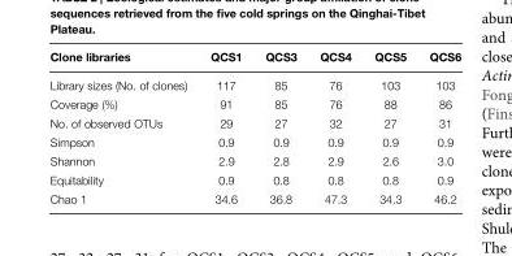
<table><thead><tr><td>Clone libraries</td><td>QCS1</td><td>QCS3</td><td>QCS4</td><td>QCS5</td><td>QCS6</td></tr></thead><tbody><tr><td>Library sizes (No. of clones)</td><td>117</td><td>85</td><td>76</td><td>103</td><td>103</td></tr><tr><td>Coverage (%)</td><td>91</td><td>85</td><td>76</td><td>88</td><td>86</td></tr><tr><td>No. of observed OTUs</td><td>29</td><td>27</td><td>32</td><td>27</td><td>31</td></tr><tr><td>Simpson</td><td>0.9</td><td>0.9</td><td>0.9</td><td>0.9</td><td>0.9</td></tr><tr><td>Shannon</td><td>2.9</td><td>2.8</td><td>2.9</td><td>2.6</td><td>3.0</td></tr><tr><td>Equitability</td><td>0.9</td><td>0.8</td><td>0.8</td><td>0.8</td><td>0.9</td></tr><tr><td>Chao 1</td><td>34.6</td><td>36.8</td><td>47.3</td><td>34.3</td><td>46.2</td></tr></tbody></table>